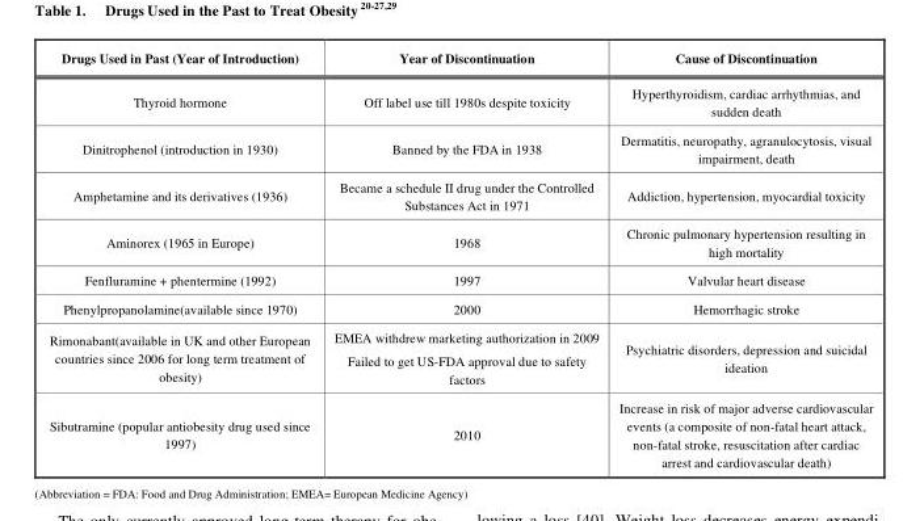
<table><thead><tr><td>Drugs Used in Past (Year of Introduction)</td><td>Year of Discontinuation</td><td>Cause of Discontinuation</td></tr></thead><tbody><tr><td>Thyroid hormone</td><td>Off label use till 1980s despite toxicity</td><td>Hyperthyroidism, cardiac arrhythmias, and sudden death</td></tr><tr><td>Dinitrophenol (introduction in 1930)</td><td>Banned by the FDA in 1938</td><td>Dermatitis, neuropathy, agranulocytosis, visual impairment, death</td></tr><tr><td>Amphetamine and its derivatives (1936)</td><td>Became a schedule II drug under the Controlled Substances Act in 1971</td><td>Addiction, hypertension, myocardial toxicity</td></tr><tr><td>Aminorex (1965 in Europe)</td><td>1968</td><td>Chronic pulmonary hypertension resulting in high mortality</td></tr><tr><td>Fenfluramine + phentermine (1992)</td><td>1997</td><td>Valvular heart disease</td></tr><tr><td>Phenylpropanolamine(available since 1970)</td><td>2000</td><td>Hemorrhagic stroke</td></tr><tr><td>Rimonabant(available in UK and other European countries since 2006 for long term treatment of obesity)</td><td>EMEA withdrew marketing authorization in 2009 Failed to get US-FDA approval due to safety factors</td><td>Psychiatric disorders, depression and suicidal ideation</td></tr><tr><td>Sibutramine (popular antiobesity drug used since 1997)</td><td>2010</td><td>Increase in risk of major adverse cardiovascular events (a composite of non-fatal heart attack, non-fatal stroke, resuscitation after cardiac arrest and cardiovascular death)</td></tr></tbody></table>